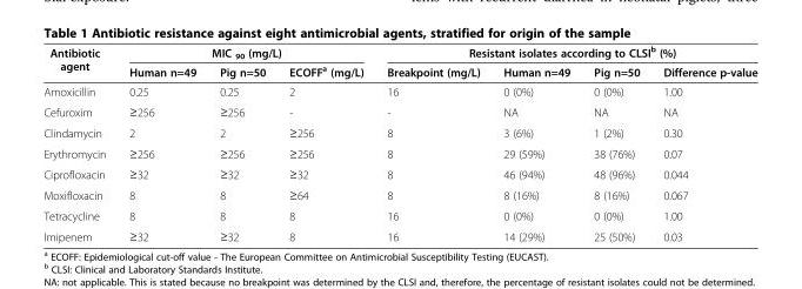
<table><thead><tr><td rowspan="2">Antibiotic agent</td><td colspan="3">MIC <sub>90</sub> (mg/L)</td><td colspan="4">Resistant isolates according to CLSI<sup>b</sup> (%)</td></tr><tr><td>Human n=49</td><td>Pig n=50</td><td>ECOFF<sup>a</sup> (mg/L)</td><td>Breakpoint (mg/L)</td><td>Human n=49</td><td>Pig n=50</td><td>Difference p-value</td></tr></thead><tbody><tr><td>Amoxicillin</td><td>0.25</td><td>0.25</td><td>2</td><td>16</td><td>0 (0%)</td><td>0 (0%)</td><td>1.00</td></tr><tr><td>Cefuroxim</td><td>≥256</td><td>≥256</td><td>-</td><td>-</td><td>NA</td><td>NA</td><td>NA</td></tr><tr><td>Clindamycin</td><td>2</td><td>2</td><td>≥256</td><td>8</td><td>3 (6%)</td><td>1 (2%)</td><td>0.30</td></tr><tr><td>Erythromycin</td><td>≥256</td><td>≥256</td><td>≥256</td><td>8</td><td>29 (59%)</td><td>38 (76%)</td><td>0.07</td></tr><tr><td>Ciprofloxacin</td><td>≥32</td><td>≥32</td><td>≥32</td><td>8</td><td>46 (94%)</td><td>48 (96%)</td><td>0.044</td></tr><tr><td>Moxifloxacin</td><td>8</td><td>8</td><td>≥64</td><td>8</td><td>8 (16%)</td><td>8 (16%)</td><td>0.067</td></tr><tr><td>Tetracycline</td><td>8</td><td>8</td><td>8</td><td>16</td><td>0 (0%)</td><td>0 (0%)</td><td>1.00</td></tr><tr><td>Imipenem</td><td>≥32</td><td>≥32</td><td>8</td><td>16</td><td>14 (29%)</td><td>25 (50%)</td><td>0.03</td></tr></tbody></table>